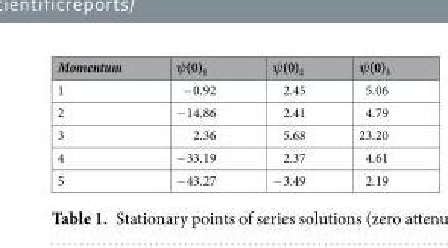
<table><thead><tr><td>Momentum</td><td>ψ(0)<sub>1</sub></td><td>ψ(0)<sub>2</sub></td><td>ψ(0)<sub>3</sub></td></tr></thead><tbody><tr><td>1</td><td>−0.92</td><td>2.45</td><td>5.06</td></tr><tr><td>2</td><td>−14.86</td><td>2.41</td><td>4.79</td></tr><tr><td>3</td><td>2.36</td><td>5.68</td><td>23.20</td></tr><tr><td>4</td><td>−33.19</td><td>2.37</td><td>4.61</td></tr><tr><td>5</td><td>−43.27</td><td>−3.49</td><td>2.19</td></tr></tbody></table>